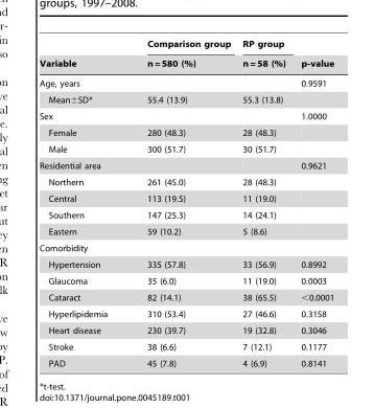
<table><thead><tr><td rowspan="2">Variable</td><td rowspan="2">Comparison group n = 580 (%)</td><td rowspan="2">RP group n = 58 (%)</td><td rowspan="2">p-value</td></tr><tr></tr></thead><tbody><tr><td>Age, years</td><td></td><td></td><td>0.9591</td></tr><tr><td>Mean±SD*</td><td>55.4 (13.9)</td><td>55.3 (13.8)</td><td></td></tr><tr><td>Sex</td><td></td><td></td><td>1.0000</td></tr><tr><td>Female</td><td>280 (48.3)</td><td>28 (48.3)</td><td></td></tr><tr><td>Male</td><td>300 (51.7)</td><td>30 (51.7)</td><td></td></tr><tr><td>Residential area</td><td></td><td></td><td>0.9621</td></tr><tr><td>Northern</td><td>261 (45.0)</td><td>28 (48.3)</td><td></td></tr><tr><td>Central</td><td>113 (19.5)</td><td>11 (19.0)</td><td></td></tr><tr><td>Southern</td><td>147 (25.3)</td><td>14 (24.1)</td><td></td></tr><tr><td>Eastern</td><td>59 (10.2)</td><td>5 (8.6)</td><td></td></tr><tr><td colspan="4">Comorbidity</td></tr><tr><td>Hypertension</td><td>335 (57.8)</td><td>33 (56.9)</td><td>0.8992</td></tr><tr><td>Glaucoma</td><td>35 (6.0)</td><td>11 (19.0)</td><td>0.0003</td></tr><tr><td>Cataract</td><td>82 (14.1)</td><td>38 (65.5)</td><td>&lt;0.0001</td></tr><tr><td>Hyperlipidemia</td><td>310 (53.4)</td><td>27 (46.6)</td><td>0.3158</td></tr><tr><td>Heart disease</td><td>230 (39.7)</td><td>19 (32.8)</td><td>0.3046</td></tr><tr><td>Stroke</td><td>38 (6.6)</td><td>7 (12.1)</td><td>0.1177</td></tr><tr><td>PAD</td><td>45 (7.8)</td><td>4 (6.9)</td><td>0.8141</td></tr></tbody></table>